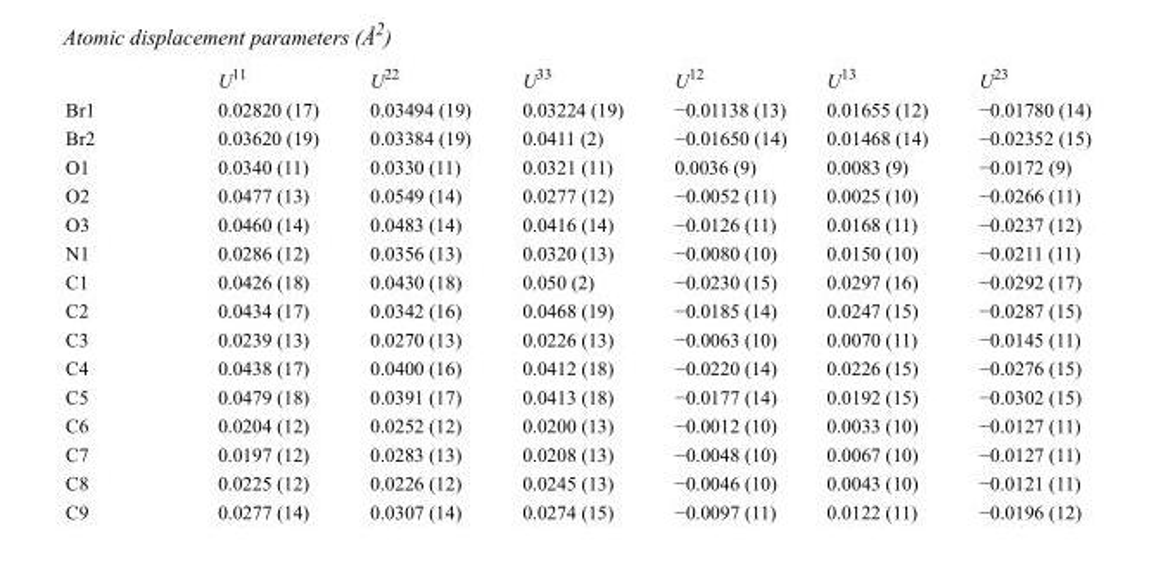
<table><thead><tr><td></td><td>U<sup>11</sup></td><td>U<sup>22</sup></td><td>U<sup>33</sup></td><td>U<sup>12</sup></td><td>U<sup>13</sup></td><td>U<sup>23</sup></td></tr></thead><tbody><tr><td>Br1</td><td>0.02820 (17)</td><td>0.03494 (19)</td><td>0.03224 (19)</td><td>−0.01138 (13)</td><td>0.01655 (12)</td><td>−0.01780 (14)</td></tr><tr><td>Br2</td><td>0.03620 (19)</td><td>0.03384 (19)</td><td>0.0411 (2)</td><td>−0.01650 (14)</td><td>0.01468 (14)</td><td>−0.02352 (15)</td></tr><tr><td>O1</td><td>0.0340 (11)</td><td>0.0330 (11)</td><td>0.0321 (11)</td><td>0.0036 (9)</td><td>0.0083 (9)</td><td>−0.0172 (9)</td></tr><tr><td>O2</td><td>0.0477 (13)</td><td>0.0549 (14)</td><td>0.0277 (12)</td><td>−0.0052 (11)</td><td>0.0025 (10)</td><td>−0.0266 (11)</td></tr><tr><td>O3</td><td>0.0460 (14)</td><td>0.0483 (14)</td><td>0.0416 (14)</td><td>−0.0126 (11)</td><td>0.0168 (11)</td><td>−0.0237 (12)</td></tr><tr><td>N1</td><td>0.0286 (12)</td><td>0.0356 (13)</td><td>0.0320 (13)</td><td>−0.0080 (10)</td><td>0.0150 (10)</td><td>−0.0211 (11)</td></tr><tr><td>C1</td><td>0.0426 (18)</td><td>0.0430 (18)</td><td>0.050 (2)</td><td>−0.0230 (15)</td><td>0.0297 (16)</td><td>−0.0292 (17)</td></tr><tr><td>C2</td><td>0.0434 (17)</td><td>0.0342 (16)</td><td>0.0468 (19)</td><td>−0.0185 (14)</td><td>0.0247 (15)</td><td>−0.0287 (15)</td></tr><tr><td>C3</td><td>0.0239 (13)</td><td>0.0270 (13)</td><td>0.0226 (13)</td><td>−0.0063 (10)</td><td>0.0070 (11)</td><td>−0.0145 (11)</td></tr><tr><td>C4</td><td>0.0438 (17)</td><td>0.0400 (16)</td><td>0.0412 (18)</td><td>−0.0220 (14)</td><td>0.0226 (15)</td><td>−0.0276 (15)</td></tr><tr><td>C5</td><td>0.0479 (18)</td><td>0.0391 (17)</td><td>0.0413 (18)</td><td>−0.0177 (14)</td><td>0.0192 (15)</td><td>−0.0302 (15)</td></tr><tr><td>C6</td><td>0.0204 (12)</td><td>0.0252 (12)</td><td>0.0200 (13)</td><td>−0.0012 (10)</td><td>0.0033 (10)</td><td>−0.0127 (11)</td></tr><tr><td>C7</td><td>0.0197 (12)</td><td>0.0283 (13)</td><td>0.0208 (13)</td><td>−0.0048 (10)</td><td>0.0067 (10)</td><td>−0.0127 (11)</td></tr><tr><td>C8</td><td>0.0225 (12)</td><td>0.0226 (12)</td><td>0.0245 (13)</td><td>−0.0046 (10)</td><td>0.0043 (10)</td><td>−0.0121 (11)</td></tr><tr><td>C9</td><td>0.0277 (14)</td><td>0.0307 (14)</td><td>0.0274 (15)</td><td>−0.0097 (11)</td><td>0.0122 (11)</td><td>−0.0196 (12)</td></tr></tbody></table>